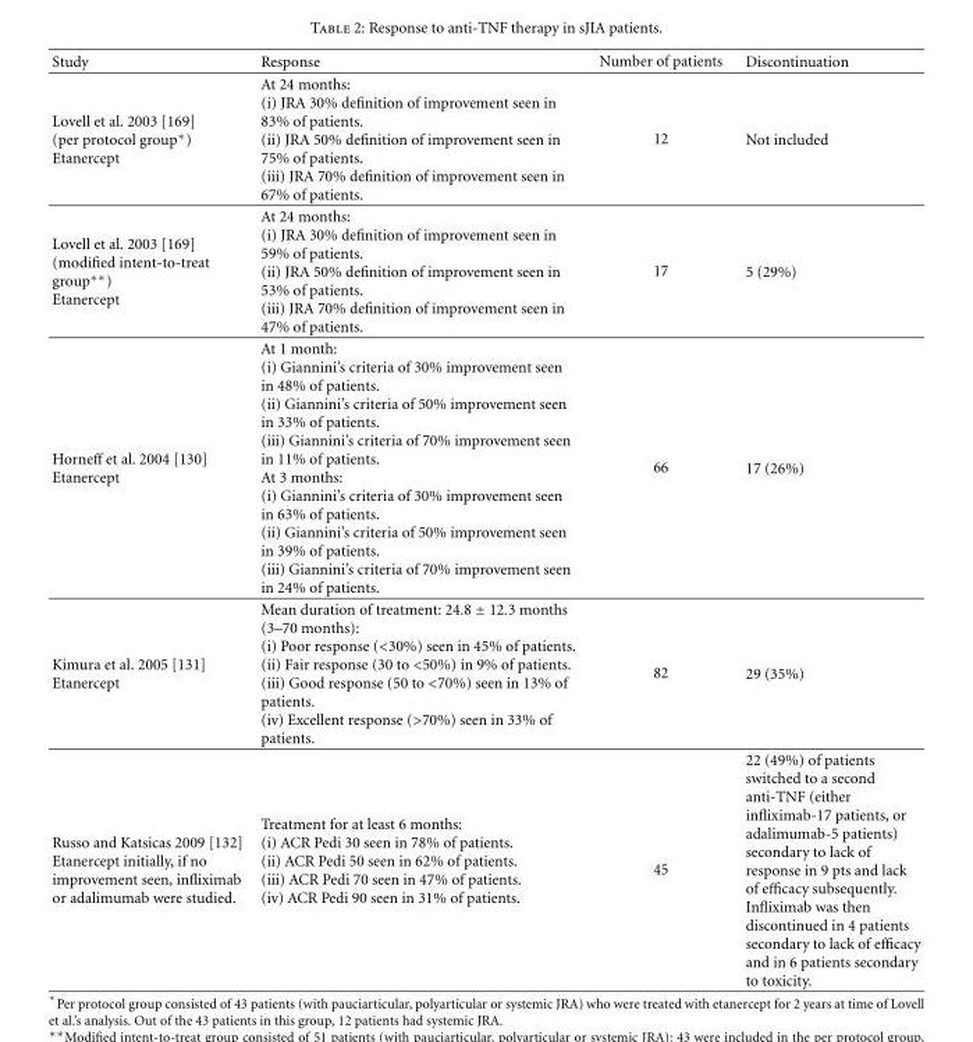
<table><thead><tr><td>Study</td><td>Response</td><td>Number of patients</td><td>Discontinuation</td></tr></thead><tbody><tr><td>Lovell et al. 2003 [169] (per protocol group∗) Etanercept</td><td>At 24 months: (i) JRA 30% definition of improvement seen in 83% of patients. (ii) JRA 50% definition of improvement seen in 75% of patients. (iii) JRA 70% definition of improvement seen in 67% of patients.</td><td>12</td><td>Not included</td></tr><tr><td>Lovell et al. 2003 [169] (modified intent-to-treat group∗∗) Etanercept</td><td>At 24 months: (i) JRA 30% definition of improvement seen in 59% of patients. (ii) JRA 50% definition of improvement seen in 53% of patients. (iii) JRA 70% definition of improvement seen in 47% of patients.</td><td>17</td><td>5 (29%)</td></tr><tr><td>Horneff et al. 2004 [130] Etanercept</td><td>At 1 month: (i) Giannini’s criteria of 30% improvement seen in 48% of patients. (ii) Giannini’s criteria of 50% improvement seen in 33% of patients. (iii) Giannini’s criteria of 70% improvement seen in 11% of patients. At 3 months: (i) Giannini’s criteria of 30% improvement seen in 63% of patients. (ii) Giannini’s criteria of 50% improvement seen in 39% of patients. (iii) Giannini’s criteria of 70% improvement seen in 24% of patients.</td><td>66</td><td>17 (26%)</td></tr><tr><td>Kimura et al. 2005 [131] Etanercept</td><td>Mean duration of treatment: 24.8 ± 12.3 months (3–70 months): (i) Poor response (&lt;30%) seen in 45% of patients. (ii) Fair response (30 to &lt;50%) in 9% of patients. (iii) Good response (50 to &lt;70%) seen in 13% of patients. (iv) Excellent response (&gt;70%) seen in 33% of patients.</td><td>82</td><td>29 (35%)</td></tr><tr><td>Russo and Katsicas 2009 [132] Etanercept initially, if no improvement seen, infliximab or adalimumab were studied.</td><td>Treatment for at least 6 months: (i) ACR Pedi 30 seen in 78% of patients. (ii) ACR Pedi 50 seen in 62% of patients. (iii) ACR Pedi 70 seen in 47% of patients. (iv) ACR Pedi 90 seen in 31% of patients.</td><td>45</td><td>22 (49%) of patients switched to a second anti-TNF (either infliximab-17 patients, or adalimumab-5 patients) secondary to lack of response in 9 pts and lack of efficacy subsequently. Infliximab was then discontinued in 4 patients secondary to lack of efficacy and in 6 patients secondary to toxicity.</td></tr></tbody></table>